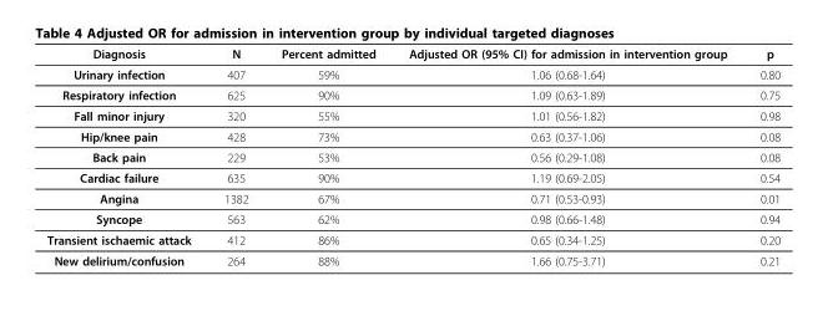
<table><thead><tr><td>Diagnosis</td><td>N</td><td>Percent admitted</td><td>Adjusted OR (95% CI) for admission in intervention group</td><td>p</td></tr></thead><tbody><tr><td>Urinary infection</td><td>407</td><td>59%</td><td>1.06 (0.68-1.64)</td><td>0.80</td></tr><tr><td>Respiratory infection</td><td>625</td><td>90%</td><td>1.09 (0.63-1.89)</td><td>0.75</td></tr><tr><td>Fall minor injury</td><td>320</td><td>55%</td><td>1.01 (0.56-1.82)</td><td>0.98</td></tr><tr><td>Hip/knee pain</td><td>428</td><td>73%</td><td>0.63 (0.37-1.06)</td><td>0.08</td></tr><tr><td>Back pain</td><td>229</td><td>53%</td><td>0.56 (0.29-1.08)</td><td>0.08</td></tr><tr><td>Cardiac failure</td><td>635</td><td>90%</td><td>1.19 (0.69-2.05)</td><td>0.54</td></tr><tr><td>Angina</td><td>1382</td><td>67%</td><td>0.71 (0.53-0.93)</td><td>0.01</td></tr><tr><td>Syncope</td><td>563</td><td>62%</td><td>0.98 (0.66-1.48)</td><td>0.94</td></tr><tr><td>Transient ischaemic attack</td><td>412</td><td>86%</td><td>0.65 (0.34-1.25)</td><td>0.20</td></tr><tr><td>New delirium/confusion</td><td>264</td><td>88%</td><td>1.66 (0.75-3.71)</td><td>0.21</td></tr></tbody></table>